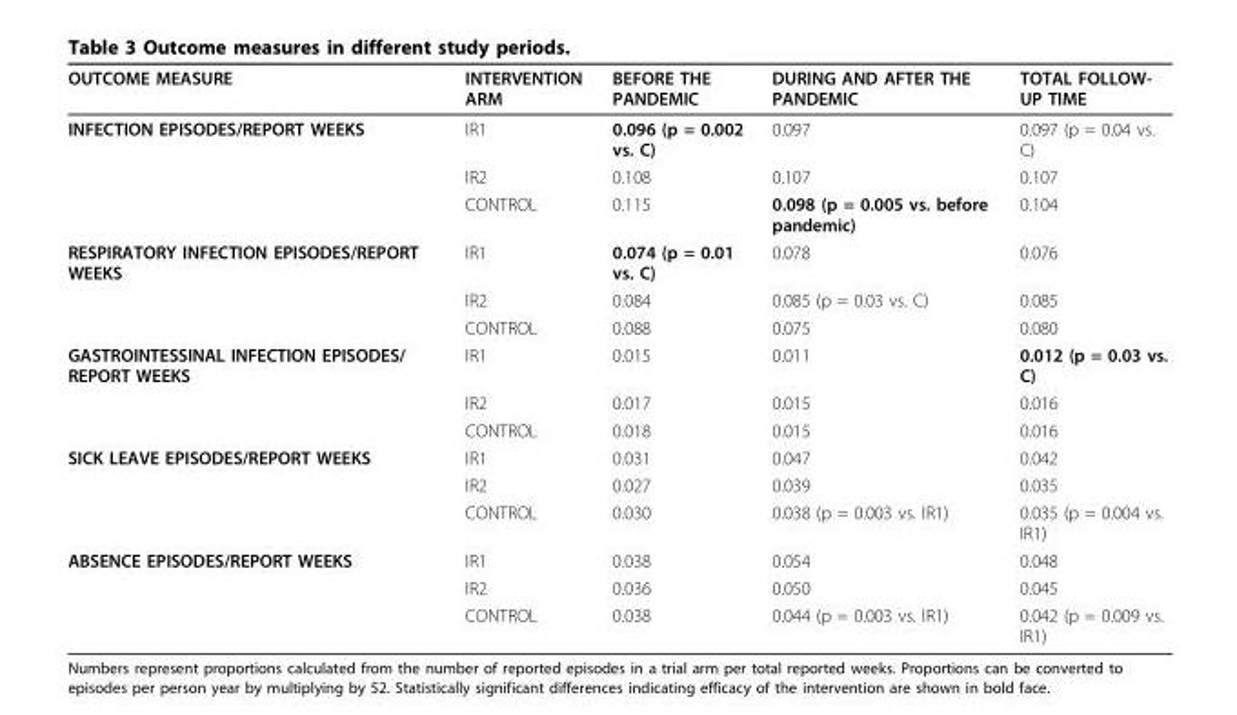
<table><thead><tr><td>OUTCOME MEASURE</td><td>INTERVENTION ARM</td><td>BEFORE THE PANDEMIC</td><td>DURING AND AFTER THE PANDEMIC</td><td>TOTAL FOLLOW- UP TIME</td></tr></thead><tbody><tr><td rowspan="3">INFECTION EPISODES/REPORT WEEKS</td><td>IR1</td><td>0.096 (p = 0.002 vs. C)</td><td>0.097</td><td>0.097 (p = 0.04 vs. C)</td></tr><tr><td>IR2</td><td>0.108</td><td>0.107</td><td>0.107</td></tr><tr><td>CONTROL</td><td>0.115</td><td>0.098 (p = 0.005 vs. before pandemic)</td><td>0.104</td></tr><tr><td rowspan="3">RESPIRATORY INFECTION EPISODES/REPORT WEEKS</td><td>IR1</td><td>0.074 (p = 0.01 vs. C)</td><td>0.078</td><td>0.076</td></tr><tr><td>IR2</td><td>0.084</td><td>0.085 (p = 0.03 vs. C)</td><td>0.085</td></tr><tr><td>CONTROL</td><td>0.088</td><td>0.075</td><td>0.080</td></tr><tr><td rowspan="3">GASTROINTESSINAL INFECTION EPISODES/ REPORT WEEKS</td><td>IR1</td><td>0.015</td><td>0.011</td><td>0.012 (p = 0.03 vs. C)</td></tr><tr><td>IR2</td><td>0.017</td><td>0.015</td><td>0.016</td></tr><tr><td>CONTROL</td><td>0.018</td><td>0.015</td><td>0.016</td></tr><tr><td rowspan="3">SICK LEAVE EPISODES/REPORT WEEKS</td><td>IR1</td><td>0.031</td><td>0.047</td><td>0.042</td></tr><tr><td>IR2</td><td>0.027</td><td>0.039</td><td>0.035</td></tr><tr><td>CONTROL</td><td>0.030</td><td>0.038 (p = 0.003 vs. IR1)</td><td>0.035 (p = 0.004 vs. IR1)</td></tr><tr><td rowspan="3">ABSENCE EPISODES/REPORT WEEKS</td><td>IR1</td><td>0.038</td><td>0.054</td><td>0.048</td></tr><tr><td>IR2</td><td>0.036</td><td>0.050</td><td>0.045</td></tr><tr><td>CONTROL</td><td>0.038</td><td>0.044 (p = 0.003 vs. IR1)</td><td>0.042 (p = 0.009 vs. IR1)</td></tr></tbody></table>